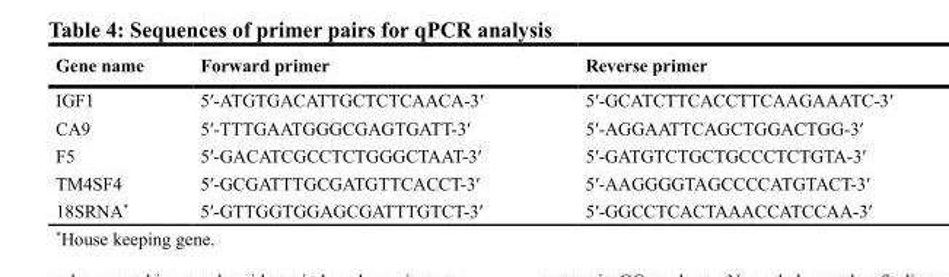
<table><thead><tr><td>Gene name</td><td>Forward primer</td><td>Reverse primer</td></tr></thead><tbody><tr><td>IGF1</td><td>5′-ATGTGACATTGCTCTCAACA-3′</td><td>5′-GCATCTTCACCTTCAAGAAATC-3′</td></tr><tr><td>CA9</td><td>5′-TTTGAATGGGCGAGTGATT-3′</td><td>5′-AGGAATTCAGCTGGACTGG-3′</td></tr><tr><td>F5</td><td>5′-GACATCGCCTCTGGGCTAAT-3′</td><td>5′-GATGTCTGCTGCCCTCTGTA-3′</td></tr><tr><td>TM4SF4</td><td>5′-GCGATTTGCGATGTTCACCT-3′</td><td>5′-AAGGGGTAGCCCCATGTACT-3′</td></tr><tr><td>18SRNA*</td><td>5′-GTTGGTGGAGCGATTTGTCT-3′</td><td>5′-GGCCTCACTAAACCATCCAA-3′</td></tr></tbody></table>